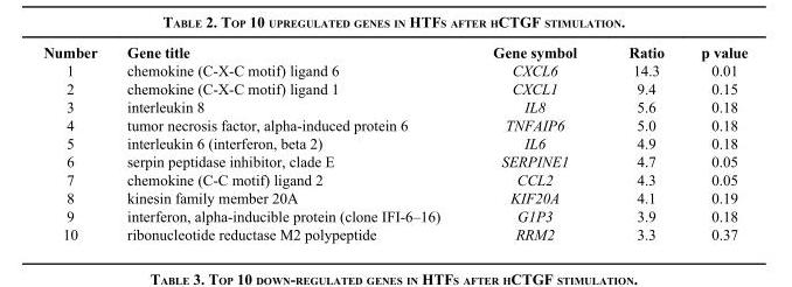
<table><thead><tr><td>Number</td><td>Gene title</td><td>Gene symbol</td><td>Ratio</td><td>p value</td></tr></thead><tbody><tr><td>1</td><td>chemokine (C-X-C motif) ligand 6</td><td>CXCL6</td><td>14.3</td><td>0.01</td></tr><tr><td>2</td><td>chemokine (C-X-C motif) ligand 1</td><td>CXCL1</td><td>9.4</td><td>0.15</td></tr><tr><td>3</td><td>interleukin 8</td><td>IL8</td><td>5.6</td><td>0.18</td></tr><tr><td>4</td><td>tumor necrosis factor, alpha-induced protein 6</td><td>TNFAIP6</td><td>5.0</td><td>0.18</td></tr><tr><td>5</td><td>interleukin 6 (interferon, beta 2)</td><td>IL6</td><td>4.9</td><td>0.18</td></tr><tr><td>6</td><td>serpin peptidase inhibitor, clade E</td><td>SERPINE1</td><td>4.7</td><td>0.05</td></tr><tr><td>7</td><td>chemokine (C-C motif) ligand 2</td><td>CCL2</td><td>4.3</td><td>0.05</td></tr><tr><td>8</td><td>kinesin family member 20A</td><td>KIF20A</td><td>4.1</td><td>0.19</td></tr><tr><td>9</td><td>interferon, alpha-inducible protein (clone IFI-6–16)</td><td>G1P3</td><td>3.9</td><td>0.18</td></tr><tr><td>10</td><td>ribonucleotide reductase M2 polypeptide</td><td>RRM2</td><td>3.3</td><td>0.37</td></tr></tbody></table>